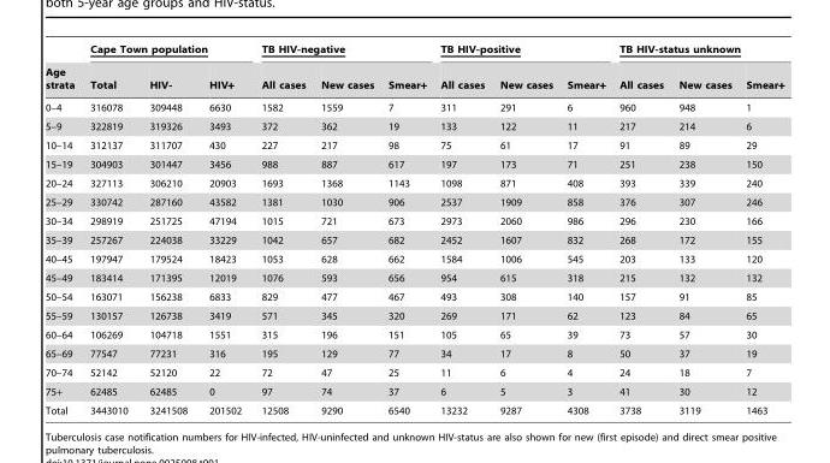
<table><thead><tr><td rowspan="2">Age strata</td><td colspan="3">Cape Town population</td><td colspan="3">TB HIV-negative</td><td colspan="3">TB HIV-positive</td><td colspan="3">TB HIV-status unknown</td></tr><tr><td>Total</td><td>HIV-</td><td>HIV+</td><td>All cases</td><td>New cases</td><td>Smear+</td><td>All cases</td><td>New cases</td><td>Smear+</td><td>All cases</td><td>New cases</td><td>Smear+</td></tr></thead><tbody><tr><td>0–4</td><td>316078</td><td>309448</td><td>6630</td><td>1582</td><td>1559</td><td>7</td><td>311</td><td>291</td><td>6</td><td>960</td><td>948</td><td>1</td></tr><tr><td>5–9</td><td>322819</td><td>319326</td><td>3493</td><td>372</td><td>362</td><td>19</td><td>133</td><td>122</td><td>11</td><td>217</td><td>214</td><td>6</td></tr><tr><td>10–14</td><td>312137</td><td>311707</td><td>430</td><td>227</td><td>217</td><td>98</td><td>75</td><td>61</td><td>17</td><td>91</td><td>89</td><td>29</td></tr><tr><td>15–19</td><td>304903</td><td>301447</td><td>3456</td><td>988</td><td>887</td><td>617</td><td>197</td><td>173</td><td>71</td><td>251</td><td>238</td><td>150</td></tr><tr><td>20–24</td><td>327113</td><td>306210</td><td>20903</td><td>1693</td><td>1368</td><td>1143</td><td>1098</td><td>871</td><td>408</td><td>393</td><td>339</td><td>240</td></tr><tr><td>25–29</td><td>330742</td><td>287160</td><td>43582</td><td>1381</td><td>1030</td><td>906</td><td>2537</td><td>1909</td><td>858</td><td>376</td><td>307</td><td>246</td></tr><tr><td>30–34</td><td>298919</td><td>251725</td><td>47194</td><td>1015</td><td>721</td><td>673</td><td>2973</td><td>2060</td><td>986</td><td>296</td><td>230</td><td>166</td></tr><tr><td>35–39</td><td>257267</td><td>224038</td><td>33229</td><td>1042</td><td>657</td><td>682</td><td>2452</td><td>1607</td><td>832</td><td>268</td><td>172</td><td>155</td></tr><tr><td>40–45</td><td>197947</td><td>179524</td><td>18423</td><td>1053</td><td>628</td><td>662</td><td>1584</td><td>1006</td><td>545</td><td>203</td><td>133</td><td>120</td></tr><tr><td>45–49</td><td>183414</td><td>171395</td><td>12019</td><td>1076</td><td>593</td><td>656</td><td>954</td><td>615</td><td>318</td><td>215</td><td>132</td><td>132</td></tr><tr><td>50–54</td><td>163071</td><td>156238</td><td>6833</td><td>829</td><td>477</td><td>467</td><td>493</td><td>308</td><td>140</td><td>157</td><td>91</td><td>85</td></tr><tr><td>55–59</td><td>130157</td><td>126738</td><td>3419</td><td>571</td><td>345</td><td>320</td><td>269</td><td>171</td><td>62</td><td>123</td><td>84</td><td>65</td></tr><tr><td>60–64</td><td>106269</td><td>104718</td><td>1551</td><td>315</td><td>196</td><td>151</td><td>105</td><td>65</td><td>39</td><td>73</td><td>57</td><td>30</td></tr><tr><td>65–69</td><td>77547</td><td>77231</td><td>316</td><td>195</td><td>129</td><td>77</td><td>34</td><td>17</td><td>8</td><td>50</td><td>37</td><td>19</td></tr><tr><td>70–74</td><td>52142</td><td>52120</td><td>22</td><td>72</td><td>47</td><td>25</td><td>11</td><td>6</td><td>4</td><td>24</td><td>18</td><td>7</td></tr><tr><td>75+</td><td>62485</td><td>62485</td><td>0</td><td>97</td><td>74</td><td>37</td><td>6</td><td>5</td><td>3</td><td>41</td><td>30</td><td>12</td></tr><tr><td>Total</td><td>3443010</td><td>3241508</td><td>201502</td><td>12508</td><td>9290</td><td>6540</td><td>13232</td><td>9287</td><td>4308</td><td>3738</td><td>3119</td><td>1463</td></tr></tbody></table>